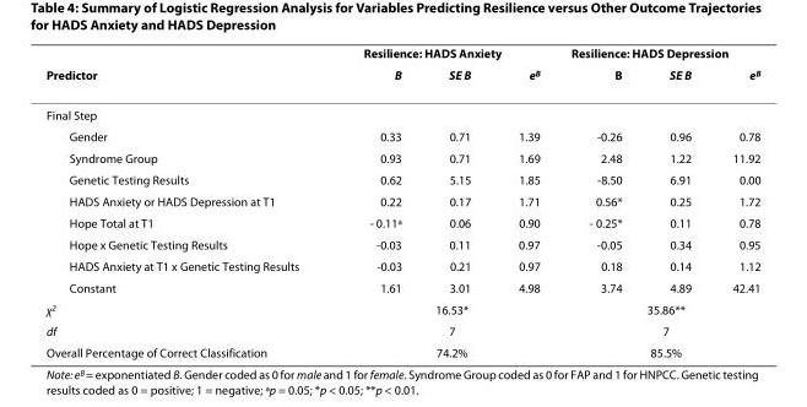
<table><thead><tr><td rowspan="2">Predictor</td><td colspan="3">Resilience: HADS Anxiety</td><td colspan="3">Resilience: HADS Depression</td></tr><tr><td>B</td><td>SE B</td><td>e<sup>B</sup></td><td>B</td><td>SE B</td><td>e<sup>B</sup></td></tr></thead><tbody><tr><td colspan="7">Final Step</td></tr><tr><td>Gender</td><td>0.33</td><td>0.71</td><td>1.39</td><td>-0.26</td><td>0.96</td><td>0.78</td></tr><tr><td>Syndrome Group</td><td>0.93</td><td>0.71</td><td>1.69</td><td>2.48</td><td>1.22</td><td>11.92</td></tr><tr><td>Genetic Testing Results</td><td>0.62</td><td>5.15</td><td>1.85</td><td>-8.50</td><td>6.91</td><td>0.00</td></tr><tr><td>HADS Anxiety or HADS Depression at T1</td><td>0.22</td><td>0.17</td><td>1.71</td><td>0.56*</td><td>0.25</td><td>1.72</td></tr><tr><td>Hope Total at T1</td><td>- 0.11<sup>a</sup></td><td>0.06</td><td>0.90</td><td>- 0.25*</td><td>0.11</td><td>0.78</td></tr><tr><td>Hope x Genetic Testing Results</td><td>-0.03</td><td>0.11</td><td>0.97</td><td>-0.05</td><td>0.34</td><td>0.95</td></tr><tr><td>HADS Anxiety at T1 x Genetic Testing Results</td><td>-0.03</td><td>0.21</td><td>0.97</td><td>0.18</td><td>0.14</td><td>1.12</td></tr><tr><td>Constant</td><td>1.61</td><td>3.01</td><td>4.98</td><td>3.74</td><td>4.89</td><td>42.41</td></tr><tr><td>χ<sup>2</sup></td><td colspan="3">16.53*</td><td colspan="3">35.86**</td></tr><tr><td>df</td><td colspan="3">7</td><td colspan="3">7</td></tr><tr><td>Overall Percentage of Correct Classification</td><td colspan="3">74.2%</td><td colspan="3">85.5%</td></tr></tbody></table>